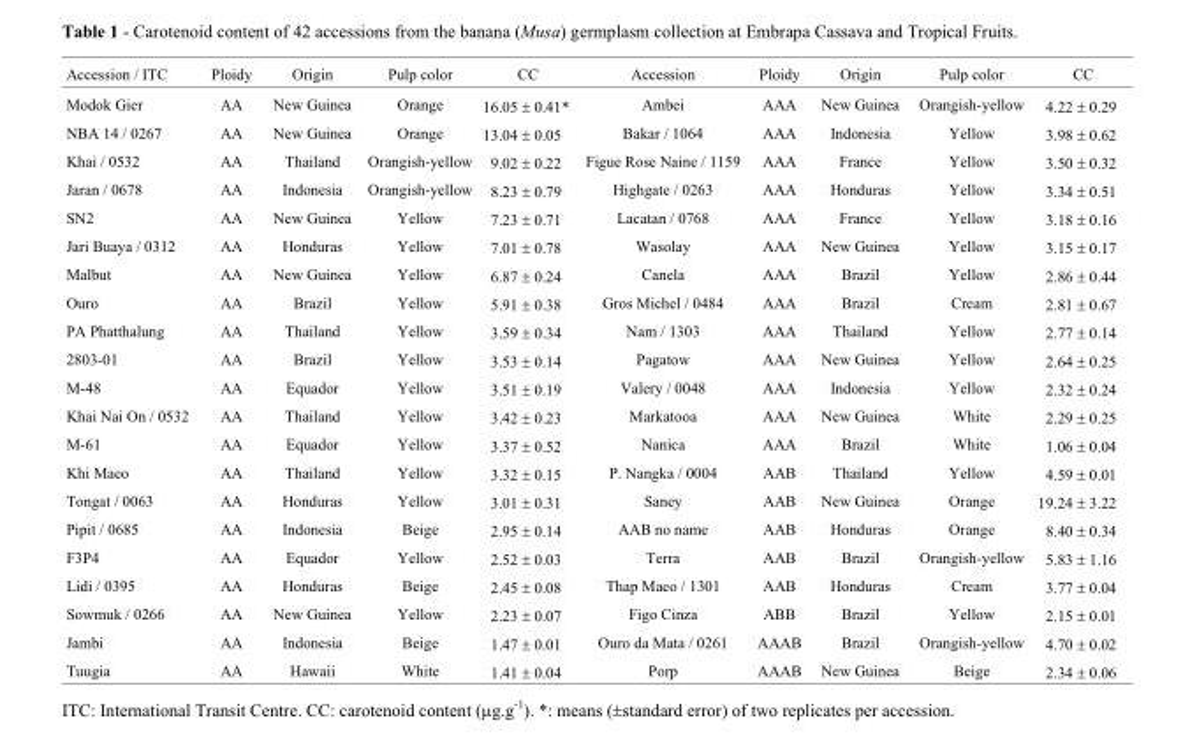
<table><thead><tr><td>Accession / ITC</td><td>Ploidy</td><td>Origin</td><td>Pulp color</td><td>CC</td><td>Accession</td><td>Ploidy</td><td>Origin</td><td>Pulp color</td><td>CC</td></tr></thead><tbody><tr><td>Modok Gier</td><td>AA</td><td>New Guinea</td><td>Orange</td><td>16.05 ± 0.41*</td><td>Ambei</td><td>AAA</td><td>New Guinea</td><td>Orangish-yellow</td><td>4.22 ± 0.29</td></tr><tr><td>NBA 14 / 0267</td><td>AA</td><td>New Guinea</td><td>Orange</td><td>13.04 ± 0.05</td><td>Bakar / 1064</td><td>AAA</td><td>Indonesia</td><td>Yellow</td><td>3.98 ± 0.62</td></tr><tr><td>Khai / 0532</td><td>AA</td><td>Thailand</td><td>Orangish-yellow</td><td>9.02 ± 0.22</td><td>Figue Rose Naine / 1159</td><td>AAA</td><td>France</td><td>Yellow</td><td>3.50 ± 0.32</td></tr><tr><td>Jaran / 0678</td><td>AA</td><td>Indonesia</td><td>Orangish-yellow</td><td>8.23 ± 0.79</td><td>Highgate / 0263</td><td>AAA</td><td>Honduras</td><td>Yellow</td><td>3.34 ± 0.51</td></tr><tr><td>SN2</td><td>AA</td><td>New Guinea</td><td>Yellow</td><td>7.23 ± 0.71</td><td>Lacatan / 0768</td><td>AAA</td><td>France</td><td>Yellow</td><td>3.18 ± 0.16</td></tr><tr><td>Jari Buaya / 0312</td><td>AA</td><td>Honduras</td><td>Yellow</td><td>7.01 ± 0.78</td><td>Wasolay</td><td>AAA</td><td>New Guinea</td><td>Yellow</td><td>3.15 ± 0.17</td></tr><tr><td>Malbut</td><td>AA</td><td>New Guinea</td><td>Yellow</td><td>6.87 ± 0.24</td><td>Canela</td><td>AAA</td><td>Brazil</td><td>Yellow</td><td>2.86 ± 0.44</td></tr><tr><td>Ouro</td><td>AA</td><td>Brazil</td><td>Yellow</td><td>5.91 ± 0.38</td><td>Gros Michel / 0484</td><td>AAA</td><td>Brazil</td><td>Cream</td><td>2.81 ± 0.67</td></tr><tr><td>PA Phatthalung</td><td>AA</td><td>Thailand</td><td>Yellow</td><td>3.59 ± 0.34</td><td>Nam / 1303</td><td>AAA</td><td>Thailand</td><td>Yellow</td><td>2.77 ± 0.14</td></tr><tr><td>2803-01</td><td>AA</td><td>Brazil</td><td>Yellow</td><td>3.53 ± 0.14</td><td>Pagatow</td><td>AAA</td><td>New Guinea</td><td>Yellow</td><td>2.64 ± 0.25</td></tr><tr><td>M-48</td><td>AA</td><td>Equador</td><td>Yellow</td><td>3.51 ± 0.19</td><td>Valery / 0048</td><td>AAA</td><td>Indonesia</td><td>Yellow</td><td>2.32 ± 0.24</td></tr><tr><td>Khai Nai On / 0532</td><td>AA</td><td>Thailand</td><td>Yellow</td><td>3.42 ± 0.23</td><td>Markatooa</td><td>AAA</td><td>New Guinea</td><td>White</td><td>2.29 ± 0.25</td></tr><tr><td>M-61</td><td>AA</td><td>Equador</td><td>Yellow</td><td>3.37 ± 0.52</td><td>Nanica</td><td>AAA</td><td>Brazil</td><td>White</td><td>1.06 ± 0.04</td></tr><tr><td>Khi Maeo</td><td>AA</td><td>Thailand</td><td>Yellow</td><td>3.32 ± 0.15</td><td>P. Nangka / 0004</td><td>AAB</td><td>Thailand</td><td>Yellow</td><td>4.59 ± 0.01</td></tr><tr><td>Tongat / 0063</td><td>AA</td><td>Honduras</td><td>Yellow</td><td>3.01 ± 0.31</td><td>Saney</td><td>AAB</td><td>New Guinea</td><td>Orange</td><td>19.24 ± 3.22</td></tr><tr><td>Pipit / 0685</td><td>AA</td><td>Indonesia</td><td>Beige</td><td>2.95 ± 0.14</td><td>AAB no name</td><td>AAB</td><td>Honduras</td><td>Orange</td><td>8.40 ± 0.34</td></tr><tr><td>F3P4</td><td>AA</td><td>Equador</td><td>Yellow</td><td>2.52 ± 0.03</td><td>Terra</td><td>AAB</td><td>Brazil</td><td>Orangish-yellow</td><td>5.83 ± 1.16</td></tr><tr><td>Lidi / 0395</td><td>AA</td><td>Honduras</td><td>Beige</td><td>2.45 ± 0.08</td><td>Thap Maeo / 1301</td><td>AAB</td><td>Honduras</td><td>Cream</td><td>3.77 ± 0.04</td></tr><tr><td>Sowmuk / 0266</td><td>AA</td><td>New Guinea</td><td>Yellow</td><td>2.23 ± 0.07</td><td>Figo Cinza</td><td>ABB</td><td>Brazil</td><td>Yellow</td><td>2.15 ± 0.01</td></tr><tr><td>Jambi</td><td>AA</td><td>Indonesia</td><td>Beige</td><td>1.47 ± 0.01</td><td>Ouro da Mata / 0261</td><td>AAAB</td><td>Brazil</td><td>Orangish-yellow</td><td>4.70 ± 0.02</td></tr><tr><td>Tuugia</td><td>AA</td><td>Hawaii</td><td>White</td><td>1.41 ± 0.04</td><td>Porp</td><td>AAAB</td><td>New Guinea</td><td>Beige</td><td>2.34 ± 0.06</td></tr></tbody></table>